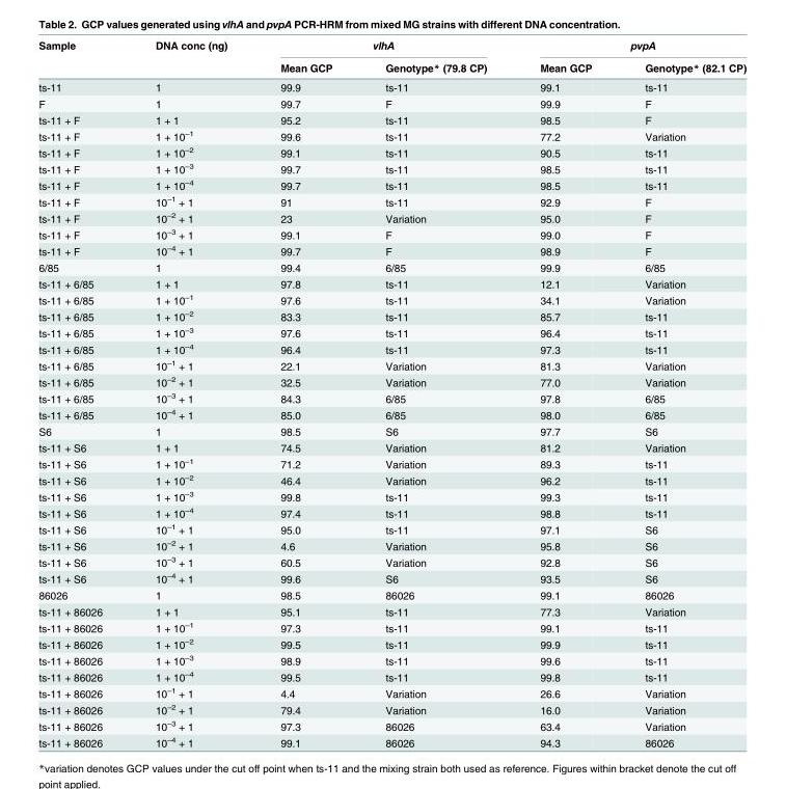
<table><thead><tr><td rowspan="2">Sample</td><td rowspan="2">DNA conc (ng)</td><td colspan="2">vlhA</td><td colspan="2">pvpA</td></tr><tr><td>Mean GCP</td><td>Genotype* (79.8 CP)</td><td>Mean GCP</td><td>Genotype* (82.1 CP)</td></tr></thead><tbody><tr><td>ts-11</td><td>1</td><td>99.9</td><td>ts-11</td><td>99.1</td><td>ts-11</td></tr><tr><td>F</td><td>1</td><td>99.7</td><td>F</td><td>99.9</td><td>F</td></tr><tr><td>ts-11 + F</td><td>1 + 1</td><td>95.2</td><td>ts-11</td><td>98.5</td><td>F</td></tr><tr><td>ts-11 + F</td><td>1 + 10<sup>–1</sup></td><td>99.6</td><td>ts-11</td><td>77.2</td><td>Variation</td></tr><tr><td>ts-11 + F</td><td>1 + 10<sup>–2</sup></td><td>99.1</td><td>ts-11</td><td>90.5</td><td>ts-11</td></tr><tr><td>ts-11 + F</td><td>1 + 10<sup>–3</sup></td><td>99.7</td><td>ts-11</td><td>98.5</td><td>ts-11</td></tr><tr><td>ts-11 + F</td><td>1 + 10<sup>–4</sup></td><td>99.7</td><td>ts-11</td><td>98.5</td><td>ts-11</td></tr><tr><td>ts-11 + F</td><td>10<sup>–1</sup> + 1</td><td>91</td><td>ts-11</td><td>92.9</td><td>F</td></tr><tr><td>ts-11 + F</td><td>10<sup>–2</sup> + 1</td><td>23</td><td>Variation</td><td>95.0</td><td>F</td></tr><tr><td>ts-11 + F</td><td>10<sup>–3</sup> + 1</td><td>99.1</td><td>F</td><td>99.0</td><td>F</td></tr><tr><td>ts-11 + F</td><td>10<sup>–4</sup> + 1</td><td>99.7</td><td>F</td><td>98.9</td><td>F</td></tr><tr><td>6/85</td><td>1</td><td>99.4</td><td>6/85</td><td>99.9</td><td>6/85</td></tr><tr><td>ts-11 + 6/85</td><td>1 + 1</td><td>97.8</td><td>ts-11</td><td>12.1</td><td>Variation</td></tr><tr><td>ts-11 + 6/85</td><td>1 + 10<sup>–1</sup></td><td>97.6</td><td>ts-11</td><td>34.1</td><td>Variation</td></tr><tr><td>ts-11 + 6/85</td><td>1 + 10<sup>–2</sup></td><td>83.3</td><td>ts-11</td><td>85.7</td><td>ts-11</td></tr><tr><td>ts-11 + 6/85</td><td>1 + 10<sup>–3</sup></td><td>97.6</td><td>ts-11</td><td>96.4</td><td>ts-11</td></tr><tr><td>ts-11 + 6/85</td><td>1 + 10<sup>–4</sup></td><td>96.4</td><td>ts-11</td><td>97.3</td><td>ts-11</td></tr><tr><td>ts-11 + 6/85</td><td>10<sup>–1</sup> + 1</td><td>22.1</td><td>Variation</td><td>81.3</td><td>Variation</td></tr><tr><td>ts-11 + 6/85</td><td>10<sup>–2</sup> + 1</td><td>32.5</td><td>Variation</td><td>77.0</td><td>Variation</td></tr><tr><td>ts-11 + 6/85</td><td>10<sup>–3</sup> + 1</td><td>84.3</td><td>6/85</td><td>97.8</td><td>6/85</td></tr><tr><td>ts-11 + 6/85</td><td>10<sup>–4</sup> + 1</td><td>85.0</td><td>6/85</td><td>98.0</td><td>6/85</td></tr><tr><td>S6</td><td>1</td><td>98.5</td><td>S6</td><td>97.7</td><td>S6</td></tr><tr><td>ts-11 + S6</td><td>1 + 1</td><td>74.5</td><td>Variation</td><td>81.2</td><td>Variation</td></tr><tr><td>ts-11 + S6</td><td>1 + 10<sup>–1</sup></td><td>71.2</td><td>Variation</td><td>89.3</td><td>ts-11</td></tr><tr><td>ts-11 + S6</td><td>1 + 10<sup>–2</sup></td><td>46.4</td><td>Variation</td><td>96.2</td><td>ts-11</td></tr><tr><td>ts-11 + S6</td><td>1 + 10<sup>–3</sup></td><td>99.8</td><td>ts-11</td><td>99.3</td><td>ts-11</td></tr><tr><td>ts-11 + S6</td><td>1 + 10<sup>–4</sup></td><td>97.4</td><td>ts-11</td><td>98.8</td><td>ts-11</td></tr><tr><td>ts-11 + S6</td><td>10<sup>–1</sup> + 1</td><td>95.0</td><td>ts-11</td><td>97.1</td><td>S6</td></tr><tr><td>ts-11 + S6</td><td>10<sup>–2</sup> + 1</td><td>4.6</td><td>Variation</td><td>95.8</td><td>S6</td></tr><tr><td>ts-11 + S6</td><td>10<sup>–3</sup> + 1</td><td>60.5</td><td>Variation</td><td>92.8</td><td>S6</td></tr><tr><td>ts-11 + S6</td><td>10<sup>–4</sup> + 1</td><td>99.6</td><td>S6</td><td>93.5</td><td>S6</td></tr><tr><td>86026</td><td>1</td><td>98.5</td><td>86026</td><td>99.1</td><td>86026</td></tr><tr><td>ts-11 + 86026</td><td>1 + 1</td><td>95.1</td><td>ts-11</td><td>77.3</td><td>Variation</td></tr><tr><td>ts-11 + 86026</td><td>1 + 10<sup>–1</sup></td><td>97.3</td><td>ts-11</td><td>99.1</td><td>ts-11</td></tr><tr><td>ts-11 + 86026</td><td>1 + 10<sup>–2</sup></td><td>99.5</td><td>ts-11</td><td>99.9</td><td>ts-11</td></tr><tr><td>ts-11 + 86026</td><td>1 + 10<sup>–3</sup></td><td>98.9</td><td>ts-11</td><td>99.6</td><td>ts-11</td></tr><tr><td>ts-11 + 86026</td><td>1 + 10<sup>–4</sup></td><td>99.5</td><td>ts-11</td><td>99.8</td><td>ts-11</td></tr><tr><td>ts-11 + 86026</td><td>10<sup>–1</sup> + 1</td><td>4.4</td><td>Variation</td><td>26.6</td><td>Variation</td></tr><tr><td>ts-11 + 86026</td><td>10<sup>–2</sup> + 1</td><td>79.4</td><td>Variation</td><td>16.0</td><td>Variation</td></tr><tr><td>ts-11 + 86026</td><td>10<sup>–3</sup> + 1</td><td>97.3</td><td>86026</td><td>63.4</td><td>Variation</td></tr><tr><td>ts-11 + 86026</td><td>10<sup>–4</sup> + 1</td><td>99.1</td><td>86026</td><td>94.3</td><td>86026</td></tr></tbody></table>